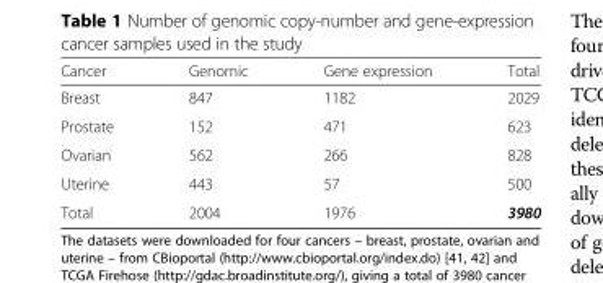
<table><thead><tr><td>Cancer</td><td>Genomic</td><td>Gene expression</td><td>Total</td></tr></thead><tbody><tr><td>Breast</td><td>847</td><td>1182</td><td>2029</td></tr><tr><td>Prostate</td><td>152</td><td>471</td><td>623</td></tr><tr><td>Ovarian</td><td>562</td><td>266</td><td>828</td></tr><tr><td>Uterine</td><td>443</td><td>57</td><td>500</td></tr><tr><td>Total</td><td>2004</td><td>1976</td><td>3980</td></tr></tbody></table>